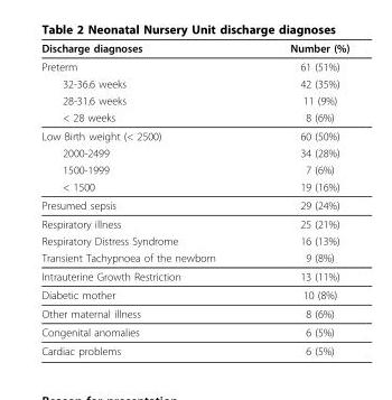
<table><thead><tr><td>Discharge diagnoses</td><td>Number (%)</td></tr></thead><tbody><tr><td>Preterm</td><td>61 (51%)</td></tr><tr><td>32-36.6 weeks</td><td>42 (35%)</td></tr><tr><td>28-31.6 weeks</td><td>11 (9%)</td></tr><tr><td>&lt; 28 weeks</td><td>8 (6%)</td></tr><tr><td>Low Birth weight (&lt; 2500)</td><td>60 (50%)</td></tr><tr><td>2000-2499</td><td>34 (28%)</td></tr><tr><td>1500-1999</td><td>7 (6%)</td></tr><tr><td>&lt; 1500</td><td>19 (16%)</td></tr><tr><td>Presumed sepsis</td><td>29 (24%)</td></tr><tr><td>Respiratory illness</td><td>25 (21%)</td></tr><tr><td>Respiratory Distress Syndrome</td><td>16 (13%)</td></tr><tr><td>Transient Tachypnoea of the newborn</td><td>9 (8%)</td></tr><tr><td>Intrauterine Growth Restriction</td><td>13 (11%)</td></tr><tr><td>Diabetic mother</td><td>10 (8%)</td></tr><tr><td>Other maternal illness</td><td>8 (6%)</td></tr><tr><td>Congenital anomalies</td><td>6 (5%)</td></tr><tr><td>Cardiac problems</td><td>6 (5%)</td></tr></tbody></table>